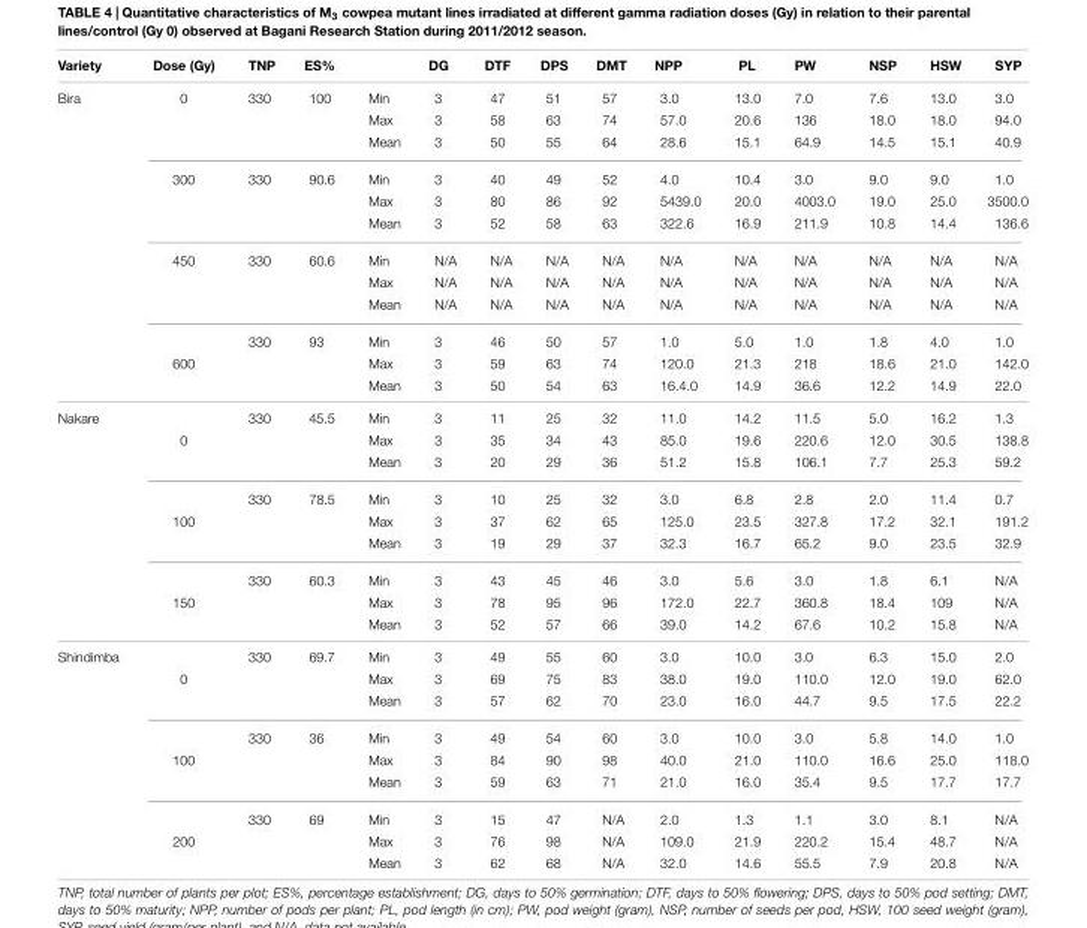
<table><thead><tr><td>Variety</td><td>Dose (Gy)</td><td>TNP</td><td>ES%</td><td></td><td>DG</td><td>DTF</td><td>DPS</td><td>DMT</td><td>NPP</td><td>PL</td><td>PW</td><td>NSP</td><td>HSW</td><td>SYP</td></tr></thead><tbody><tr><td rowspan="12">Bira</td><td>0</td><td>330</td><td>100</td><td>Min</td><td>3</td><td>47</td><td>51</td><td>57</td><td>3.0</td><td>13.0</td><td>7.0</td><td>7.6</td><td>13.0</td><td>3.0</td></tr><tr><td></td><td></td><td></td><td>Max</td><td>3</td><td>58</td><td>63</td><td>74</td><td>57.0</td><td>20.6</td><td>136</td><td>18.0</td><td>18.0</td><td>94.0</td></tr><tr><td></td><td></td><td></td><td>Mean</td><td>3</td><td>50</td><td>55</td><td>64</td><td>28.6</td><td>15.1</td><td>64.9</td><td>14.5</td><td>15.1</td><td>40.9</td></tr><tr><td>300</td><td>330</td><td>90.6</td><td>Min</td><td>3</td><td>40</td><td>49</td><td>52</td><td>4.0</td><td>10.4</td><td>3.0</td><td>9.0</td><td>9.0</td><td>1.0</td></tr><tr><td></td><td></td><td></td><td>Max</td><td>3</td><td>80</td><td>86</td><td>92</td><td>5439.0</td><td>20.0</td><td>4003.0</td><td>19.0</td><td>25.0</td><td>3500.0</td></tr><tr><td></td><td></td><td></td><td>Mean</td><td>3</td><td>52</td><td>58</td><td>63</td><td>322.6</td><td>16.9</td><td>211.9</td><td>10.8</td><td>14.4</td><td>136.6</td></tr><tr><td>450</td><td>330</td><td>60.6</td><td>Min</td><td>N/A</td><td>N/A</td><td>N/A</td><td>N/A</td><td>N/A</td><td>N/A</td><td>N/A</td><td>N/A</td><td>N/A</td><td>N/A</td></tr><tr><td></td><td></td><td></td><td>Max</td><td>N/A</td><td>N/A</td><td>N/A</td><td>N/A</td><td>N/A</td><td>N/A</td><td>N/A</td><td>N/A</td><td>N/A</td><td>N/A</td></tr><tr><td></td><td></td><td></td><td>Mean</td><td>N/A</td><td>N/A</td><td>N/A</td><td>N/A</td><td>N/A</td><td>N/A</td><td>N/A</td><td>N/A</td><td>N/A</td><td>N/A</td></tr><tr><td></td><td>330</td><td>93</td><td>Min</td><td>3</td><td>46</td><td>50</td><td>57</td><td>1.0</td><td>5.0</td><td>1.0</td><td>1.8</td><td>4.0</td><td>1.0</td></tr><tr><td>600</td><td></td><td></td><td>Max</td><td>3</td><td>59</td><td>63</td><td>74</td><td>120.0</td><td>21.3</td><td>218</td><td>18.6</td><td>21.0</td><td>142.0</td></tr><tr><td></td><td></td><td></td><td>Mean</td><td>3</td><td>50</td><td>54</td><td>63</td><td>16.4.0</td><td>14.9</td><td>36.6</td><td>12.2</td><td>14.9</td><td>22.0</td></tr><tr><td rowspan="9">Nakare</td><td></td><td>330</td><td>45.5</td><td>Min</td><td>3</td><td>11</td><td>25</td><td>32</td><td>11.0</td><td>14.2</td><td>11.5</td><td>5.0</td><td>16.2</td><td>1.3</td></tr><tr><td>0</td><td></td><td></td><td>Max</td><td>3</td><td>35</td><td>34</td><td>43</td><td>85.0</td><td>19.6</td><td>220.6</td><td>12.0</td><td>30.5</td><td>138.8</td></tr><tr><td></td><td></td><td></td><td>Mean</td><td>3</td><td>20</td><td>29</td><td>36</td><td>51.2</td><td>15.8</td><td>106.1</td><td>7.7</td><td>25.3</td><td>59.2</td></tr><tr><td></td><td>330</td><td>78.5</td><td>Min</td><td>3</td><td>10</td><td>25</td><td>32</td><td>3.0</td><td>6.8</td><td>2.8</td><td>2.0</td><td>11.4</td><td>0.7</td></tr><tr><td>100</td><td></td><td></td><td>Max</td><td>3</td><td>37</td><td>62</td><td>65</td><td>125.0</td><td>23.5</td><td>327.8</td><td>17.2</td><td>32.1</td><td>191.2</td></tr><tr><td></td><td></td><td></td><td>Mean</td><td>3</td><td>19</td><td>29</td><td>37</td><td>32.3</td><td>16.7</td><td>65.2</td><td>9.0</td><td>23.5</td><td>32.9</td></tr><tr><td></td><td>330</td><td>60.3</td><td>Min</td><td>3</td><td>43</td><td>45</td><td>46</td><td>3.0</td><td>5.6</td><td>3.0</td><td>1.8</td><td>6.1</td><td>N/A</td></tr><tr><td>150</td><td></td><td></td><td>Max</td><td>3</td><td>78</td><td>95</td><td>96</td><td>172.0</td><td>22.7</td><td>360.8</td><td>18.4</td><td>109</td><td>N/A</td></tr><tr><td></td><td></td><td></td><td>Mean</td><td>3</td><td>52</td><td>57</td><td>66</td><td>39.0</td><td>14.2</td><td>67.6</td><td>10.2</td><td>15.8</td><td>N/A</td></tr><tr><td rowspan="9">Shindimba</td><td></td><td>330</td><td>69.7</td><td>Min</td><td>3</td><td>49</td><td>55</td><td>60</td><td>3.0</td><td>10.0</td><td>3.0</td><td>6.3</td><td>15.0</td><td>2.0</td></tr><tr><td>0</td><td></td><td></td><td>Max</td><td>3</td><td>69</td><td>75</td><td>83</td><td>38.0</td><td>19.0</td><td>110.0</td><td>12.0</td><td>19.0</td><td>62.0</td></tr><tr><td></td><td></td><td></td><td>Mean</td><td>3</td><td>57</td><td>62</td><td>70</td><td>23.0</td><td>16.0</td><td>44.7</td><td>9.5</td><td>17.5</td><td>22.2</td></tr><tr><td></td><td>330</td><td>36</td><td>Min</td><td>3</td><td>49</td><td>54</td><td>60</td><td>3.0</td><td>10.0</td><td>3.0</td><td>5.8</td><td>14.0</td><td>1.0</td></tr><tr><td>100</td><td></td><td></td><td>Max</td><td>3</td><td>84</td><td>90</td><td>98</td><td>40.0</td><td>21.0</td><td>110.0</td><td>16.6</td><td>25.0</td><td>118.0</td></tr><tr><td></td><td></td><td></td><td>Mean</td><td>3</td><td>59</td><td>63</td><td>71</td><td>21.0</td><td>16.0</td><td>35.4</td><td>9.5</td><td>17.7</td><td>17.7</td></tr><tr><td></td><td>330</td><td>69</td><td>Min</td><td>3</td><td>15</td><td>47</td><td>N/A</td><td>2.0</td><td>1.3</td><td>1.1</td><td>3.0</td><td>8.1</td><td>N/A</td></tr><tr><td>200</td><td></td><td></td><td>Max</td><td>3</td><td>76</td><td>98</td><td>N/A</td><td>109.0</td><td>21.9</td><td>220.2</td><td>15.4</td><td>48.7</td><td>N/A</td></tr><tr><td></td><td></td><td></td><td>Mean</td><td>3</td><td>62</td><td>68</td><td>N/A</td><td>32.0</td><td>14.6</td><td>55.5</td><td>7.9</td><td>20.8</td><td>N/A</td></tr></tbody></table>